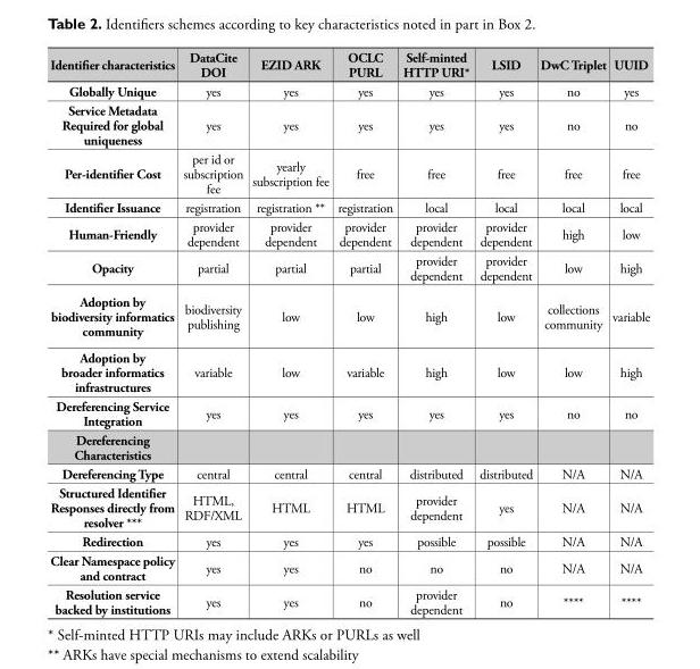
<table><thead><tr><td>Identifier characteristics</td><td>DataCite DOI</td><td>EZID ARK</td><td>OCLC PURL</td><td>Self-minted HTTP URI*</td><td>LSID</td><td>DwC Triplet</td><td>UUID</td></tr></thead><tbody><tr><td>Globally Unique</td><td>yes</td><td>yes</td><td>yes</td><td>yes</td><td>yes</td><td>no</td><td>yes</td></tr><tr><td>Service Metadata Required for global uniqueness</td><td>yes</td><td>yes</td><td>yes</td><td>yes</td><td>yes</td><td>no</td><td>no</td></tr><tr><td>Per-identifier Cost</td><td>per id or subscription fee</td><td>yearly subscription fee</td><td>free</td><td>free</td><td>free</td><td>free</td><td>free</td></tr><tr><td>Identifier Issuance</td><td>registration</td><td>registration **</td><td>registration</td><td>local</td><td>local</td><td>local</td><td>local</td></tr><tr><td>Human-Friendly</td><td>provider dependent</td><td>provider dependent</td><td>provider dependent</td><td>provider dependent</td><td>provider dependent</td><td>high</td><td>low</td></tr><tr><td>Opacity</td><td>partial</td><td>partial</td><td>partial</td><td>provider dependent</td><td>provider dependent</td><td>low</td><td>high</td></tr><tr><td>Adoption by biodiversity informatics community</td><td>biodiversity publishing</td><td>low</td><td>low</td><td>high</td><td>low</td><td>collections community</td><td>variable</td></tr><tr><td>Adoption by broader informatics infrastructures</td><td>variable</td><td>low</td><td>variable</td><td>high</td><td>low</td><td>low</td><td>high</td></tr><tr><td>Dereferencing Service Integration</td><td>yes</td><td>yes</td><td>yes</td><td>yes</td><td>yes</td><td>no</td><td>no</td></tr><tr><td colspan="8">Dereferencing Characteristics</td></tr><tr><td>Dereferencing Type</td><td>central</td><td>central</td><td>central</td><td>distributed</td><td>distributed</td><td>N/A</td><td>N/A</td></tr><tr><td>Structured Identifier Responses directly from resolver ***</td><td>HTML, RDF/XML</td><td>HTML</td><td>HTML</td><td>provider dependent</td><td>yes</td><td>N/A</td><td>N/A</td></tr><tr><td>Redirection</td><td>yes</td><td>yes</td><td>yes</td><td>possible</td><td>possible</td><td>N/A</td><td>N/A</td></tr><tr><td>Clear Namespace policy and contract</td><td>yes</td><td>yes</td><td>no</td><td>no</td><td>no</td><td>N/A</td><td>N/A</td></tr><tr><td>Resolution service backed by institutions</td><td>yes</td><td>yes</td><td>no</td><td>provider dependent</td><td>no</td><td>****</td><td>****</td></tr></tbody></table>